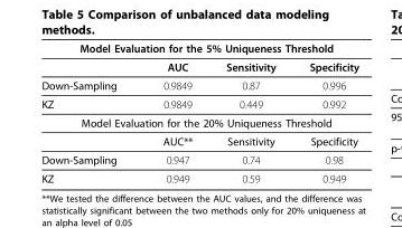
<table><thead><tr><td colspan="4">Model Evaluation for the 5% Uniqueness Threshold</td></tr><tr><td></td><td>AUC</td><td>Sensitivity</td><td>Specificity</td></tr></thead><tbody><tr><td>Down-Sampling</td><td>0.9849</td><td>0.87</td><td>0.996</td></tr><tr><td>KZ</td><td>0.9849</td><td>0.449</td><td>0.992</td></tr><tr><td colspan="4">Model Evaluation for the 20% Uniqueness Threshold</td></tr><tr><td></td><td>AUC**</td><td>Sensitivity</td><td>Specificity</td></tr><tr><td>Down-Sampling</td><td>0.947</td><td>0.74</td><td>0.98</td></tr><tr><td>KZ</td><td>0.949</td><td>0.59</td><td>0.949</td></tr></tbody></table>